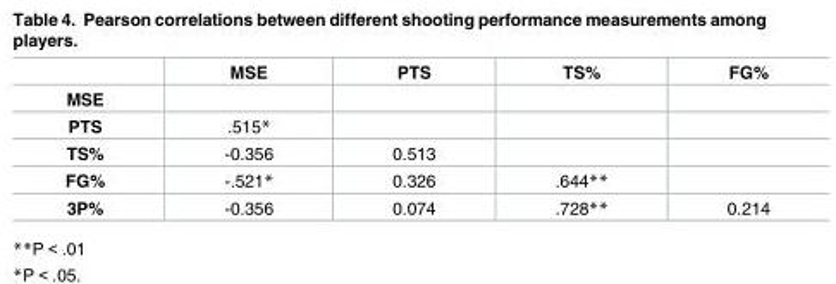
<table><thead><tr><td></td><td>MSE</td><td>PTS</td><td>TS%</td><td>FG%</td></tr></thead><tbody><tr><td colspan="5">MSE</td></tr><tr><td>PTS</td><td>.515*</td><td></td><td></td><td></td></tr><tr><td>TS%</td><td>-0.356</td><td>0.513</td><td></td><td></td></tr><tr><td>FG%</td><td>-.521*</td><td>0.326</td><td>.644**</td><td></td></tr><tr><td>3P%</td><td>-0.356</td><td>0.074</td><td>.728**</td><td>0.214</td></tr></tbody></table>